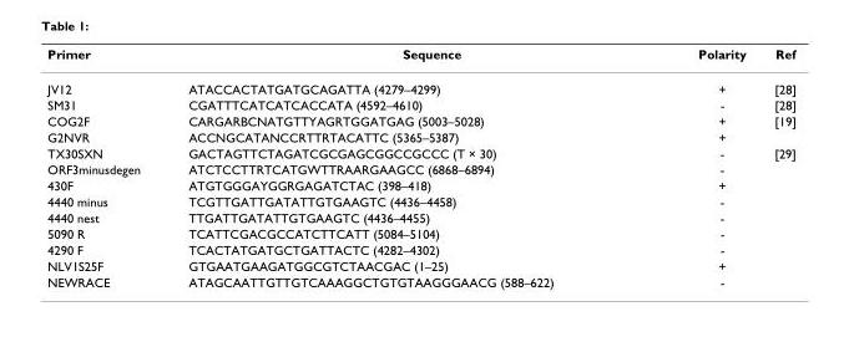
<table><thead><tr><td>Primer</td><td>Sequence</td><td>Polarity</td><td>Ref</td></tr></thead><tbody><tr><td>JV12</td><td>ATACCACTATGATGCAGATTA (4279–4299)</td><td>+</td><td>[28]</td></tr><tr><td>SM31</td><td>CGATTTCATCATCACCATA (4592–4610)</td><td>-</td><td>[28]</td></tr><tr><td>COG2F</td><td>CARGARBCNATGTTYAGRTGGATGAG (5003–5028)</td><td>+</td><td>[19]</td></tr><tr><td>G2NVR</td><td>ACCNGCATANCCRTTRTACATTC (5365–5387)</td><td>+</td><td></td></tr><tr><td>TX30SXN</td><td>GACTAGTTCTAGATCGCGAGCGGCCGCCC (T × 30)</td><td>-</td><td>[29]</td></tr><tr><td>ORF3minusdegen</td><td>ATCTCCTTRTCATGWTTRAARGAAGCC (6868–6894)</td><td>-</td><td></td></tr><tr><td>430F</td><td>ATGTGGGAYGGRGAGATCTAC (398–418)</td><td>+</td><td></td></tr><tr><td>4440 minus</td><td>TCGTTGATTGATATTGTGAAGTC (4436–4458)</td><td>-</td><td></td></tr><tr><td>4440 nest</td><td>TTGATTGATATTGTGAAGTC (4436–4455)</td><td>-</td><td></td></tr><tr><td>5090 R</td><td>TCATTCGACGCCATCTTCATT (5084–5104)</td><td>-</td><td></td></tr><tr><td>4290 F</td><td>TCACTATGATGCTGATTACTC (4282–4302)</td><td>-</td><td></td></tr><tr><td>NLV1S25F</td><td>GTGAATGAAGATGGCGTCTAACGAC (1–25)</td><td>+</td><td></td></tr><tr><td>NEWRACE</td><td>ATAGCAATTGTTGTCAAAGGCTGTGTAAGGGAACG (588–622)</td><td>-</td><td></td></tr></tbody></table>